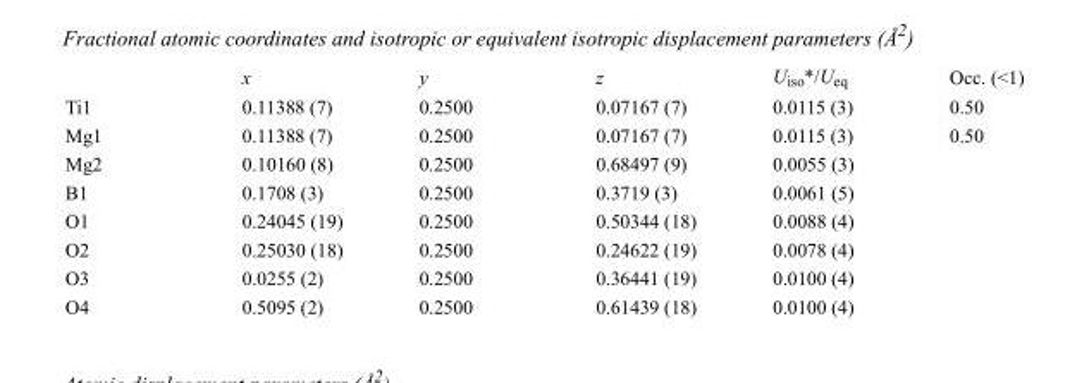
<table><thead><tr><td></td><td>x</td><td>y</td><td>z</td><td>U<sub>iso</sub>*/U<sub>eq</sub></td><td>Occ. (&lt;1)</td></tr></thead><tbody><tr><td>Ti1</td><td>0.11388 (7)</td><td>0.2500</td><td>0.07167 (7)</td><td>0.0115 (3)</td><td>0.50</td></tr><tr><td>Mg1</td><td>0.11388 (7)</td><td>0.2500</td><td>0.07167 (7)</td><td>0.0115 (3)</td><td>0.50</td></tr><tr><td>Mg2</td><td>0.10160 (8)</td><td>0.2500</td><td>0.68497 (9)</td><td>0.0055 (3)</td><td></td></tr><tr><td>B1</td><td>0.1708 (3)</td><td>0.2500</td><td>0.3719 (3)</td><td>0.0061 (5)</td><td></td></tr><tr><td>O1</td><td>0.24045 (19)</td><td>0.2500</td><td>0.50344 (18)</td><td>0.0088 (4)</td><td></td></tr><tr><td>O2</td><td>0.25030 (18)</td><td>0.2500</td><td>0.24622 (19)</td><td>0.0078 (4)</td><td></td></tr><tr><td>O3</td><td>0.0255 (2)</td><td>0.2500</td><td>0.36441 (19)</td><td>0.0100 (4)</td><td></td></tr><tr><td>O4</td><td>0.5095 (2)</td><td>0.2500</td><td>0.61439 (18)</td><td>0.0100 (4)</td><td></td></tr></tbody></table>